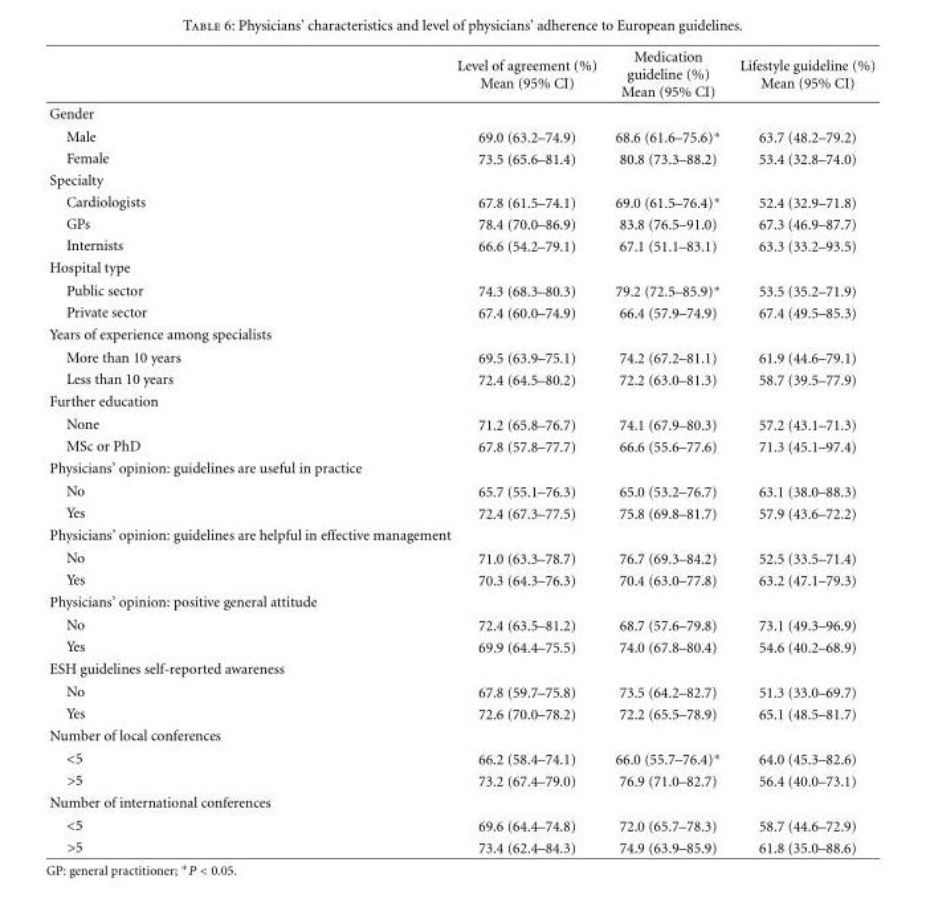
<table><thead><tr><td></td><td>Level of agreement (%) Mean (95% CI)</td><td>Medication guideline (%) Mean (95% CI)</td><td>Lifestyle guideline (%) Mean (95% CI)</td></tr></thead><tbody><tr><td colspan="4">Gender</td></tr><tr><td>Male</td><td>69.0 (63.2–74.9)</td><td>68.6 (61.6–75.6)∗</td><td>63.7 (48.2–79.2)</td></tr><tr><td>Female</td><td>73.5 (65.6–81.4)</td><td>80.8 (73.3–88.2)</td><td>53.4 (32.8–74.0)</td></tr><tr><td colspan="4">Specialty</td></tr><tr><td>Cardiologists</td><td>67.8 (61.5–74.1)</td><td>69.0 (61.5–76.4)∗</td><td>52.4 (32.9–71.8)</td></tr><tr><td>GPs</td><td>78.4 (70.0–86.9)</td><td>83.8 (76.5–91.0)</td><td>67.3 (46.9–87.7)</td></tr><tr><td>Internists</td><td>66.6 (54.2–79.1)</td><td>67.1 (51.1–83.1)</td><td>63.3 (33.2–93.5)</td></tr><tr><td colspan="4">Hospital type</td></tr><tr><td>Public sector</td><td>74.3 (68.3–80.3)</td><td>79.2 (72.5–85.9)∗</td><td>53.5 (35.2–71.9)</td></tr><tr><td>Private sector</td><td>67.4 (60.0–74.9)</td><td>66.4 (57.9–74.9)</td><td>67.4 (49.5–85.3)</td></tr><tr><td colspan="4">Years of experience among specialists</td></tr><tr><td>More than 10 years</td><td>69.5 (63.9–75.1)</td><td>74.2 (67.2–81.1)</td><td>61.9 (44.6–79.1)</td></tr><tr><td>Less than 10 years</td><td>72.4 (64.5–80.2)</td><td>72.2 (63.0–81.3)</td><td>58.7 (39.5–77.9)</td></tr><tr><td colspan="4">Further education</td></tr><tr><td>None</td><td>71.2 (65.8–76.7)</td><td>74.1 (67.9–80.3)</td><td>57.2 (43.1–71.3)</td></tr><tr><td>MSc or PhD</td><td>67.8 (57.8–77.7)</td><td>66.6 (55.6–77.6)</td><td>71.3 (45.1–97.4)</td></tr><tr><td colspan="4">Physicians’ opinion: guidelines are useful in practice</td></tr><tr><td>No</td><td>65.7 (55.1–76.3)</td><td>65.0 (53.2–76.7)</td><td>63.1 (38.0–88.3)</td></tr><tr><td>Yes</td><td>72.4 (67.3–77.5)</td><td>75.8 (69.8–81.7)</td><td>57.9 (43.6–72.2)</td></tr><tr><td colspan="4">Physicians’ opinion: guidelines are helpful in effective management</td></tr><tr><td>No</td><td>71.0 (63.3–78.7)</td><td>76.7 (69.3–84.2)</td><td>52.5 (33.5–71.4)</td></tr><tr><td>Yes</td><td>70.3 (64.3–76.3)</td><td>70.4 (63.0–77.8)</td><td>63.2 (47.1–79.3)</td></tr><tr><td colspan="4">Physicians’ opinion: positive general attitude</td></tr><tr><td>No</td><td>72.4 (63.5–81.2)</td><td>68.7 (57.6–79.8)</td><td>73.1 (49.3–96.9)</td></tr><tr><td>Yes</td><td>69.9 (64.4–75.5)</td><td>74.0 (67.8–80.4)</td><td>54.6 (40.2–68.9)</td></tr><tr><td colspan="4">ESH guidelines self-reported awareness</td></tr><tr><td>No</td><td>67.8 (59.7–75.8)</td><td>73.5 (64.2–82.7)</td><td>51.3 (33.0–69.7)</td></tr><tr><td>Yes</td><td>72.6 (70.0–78.2)</td><td>72.2 (65.5–78.9)</td><td>65.1 (48.5–81.7)</td></tr><tr><td colspan="4">Number of local conferences</td></tr><tr><td>&lt;5</td><td>66.2 (58.4–74.1)</td><td>66.0 (55.7–76.4)∗</td><td>64.0 (45.3–82.6)</td></tr><tr><td>&gt;5</td><td>73.2 (67.4–79.0)</td><td>76.9 (71.0–82.7)</td><td>56.4 (40.0–73.1)</td></tr><tr><td colspan="4">Number of international conferences</td></tr><tr><td>&lt;5</td><td>69.6 (64.4–74.8)</td><td>72.0 (65.7–78.3)</td><td>58.7 (44.6–72.9)</td></tr><tr><td>&gt;5</td><td>73.4 (62.4–84.3)</td><td>74.9 (63.9–85.9)</td><td>61.8 (35.0–88.6)</td></tr></tbody></table>